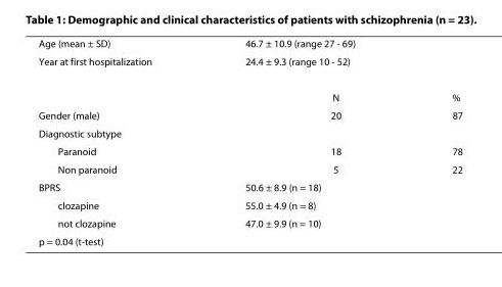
<table><tbody><tr><td>Age (mean ± SD)</td><td colspan="2">46.7 ± 10.9 (range 27 - 69)</td></tr><tr><td rowspan="2">Year at first hospitalization</td><td colspan="2">24.4 ± 9.3 (range 10 - 52)</td></tr><tr><td>N</td><td>%</td></tr><tr><td>Gender (male)</td><td>20</td><td>87</td></tr><tr><td colspan="3">Diagnostic subtype</td></tr><tr><td>Paranoid</td><td>18</td><td>78</td></tr><tr><td>Non paranoid</td><td>5</td><td>22</td></tr><tr><td>BPRS</td><td colspan="2">50.6 ± 8.9 (n = 18)</td></tr><tr><td>clozapine</td><td colspan="2">55.0 ± 4.9 (n = 8)</td></tr><tr><td>not clozapine</td><td colspan="2">47.0 ± 9.9 (n = 10)</td></tr><tr><td colspan="3">p = 0.04 (t-test)</td></tr></tbody></table>